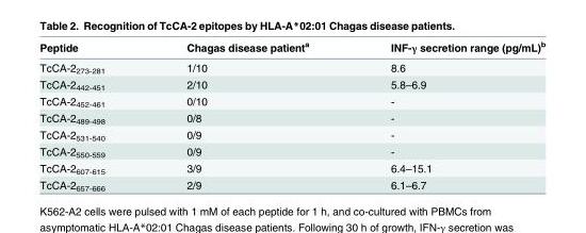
<table><thead><tr><td>Peptide</td><td>Chagas disease patient<sup>a</sup></td><td>INF-γ secretion range (pg/mL)<sup>b</sup></td></tr></thead><tbody><tr><td>TcCA-2<sub>273-281</sub></td><td>1/10</td><td>8.6</td></tr><tr><td>TcCA-2<sub>442-451</sub></td><td>2/10</td><td>5.8–6.9</td></tr><tr><td>TcCA-2<sub>452-461</sub></td><td>0/10</td><td>-</td></tr><tr><td>TcCA-2<sub>489-498</sub></td><td>0/8</td><td>-</td></tr><tr><td>TcCA-2<sub>531-540</sub></td><td>0/9</td><td>-</td></tr><tr><td>TcCA-2<sub>550-559</sub></td><td>0/9</td><td>-</td></tr><tr><td>TcCA-2<sub>607-615</sub></td><td>3/9</td><td>6.4–15.1</td></tr><tr><td>TcCA-2<sub>657-666</sub></td><td>2/9</td><td>6.1–6.7</td></tr></tbody></table>